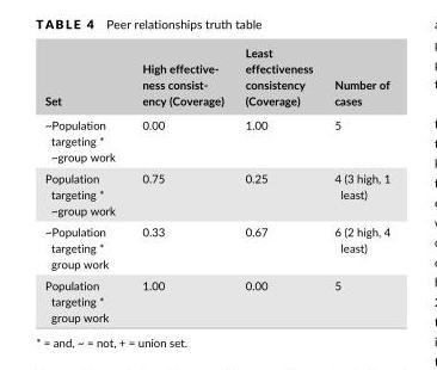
<table><thead><tr><td>Set</td><td>High effective- ness consist- ency (Coverage)</td><td>Least effectiveness consistency (Coverage)</td><td>Number of cases</td></tr></thead><tbody><tr><td>~Population targeting * ~group work</td><td>0.00</td><td>1.00</td><td>5</td></tr><tr><td>Population targeting * ~group work</td><td>0.75</td><td>0.25</td><td>4 (3 high, 1 least)</td></tr><tr><td>~Population targeting * group work</td><td>0.33</td><td>0.67</td><td>6 (2 high, 4 least)</td></tr><tr><td>Population targeting * group work</td><td>1.00</td><td>0.00</td><td>5</td></tr></tbody></table>